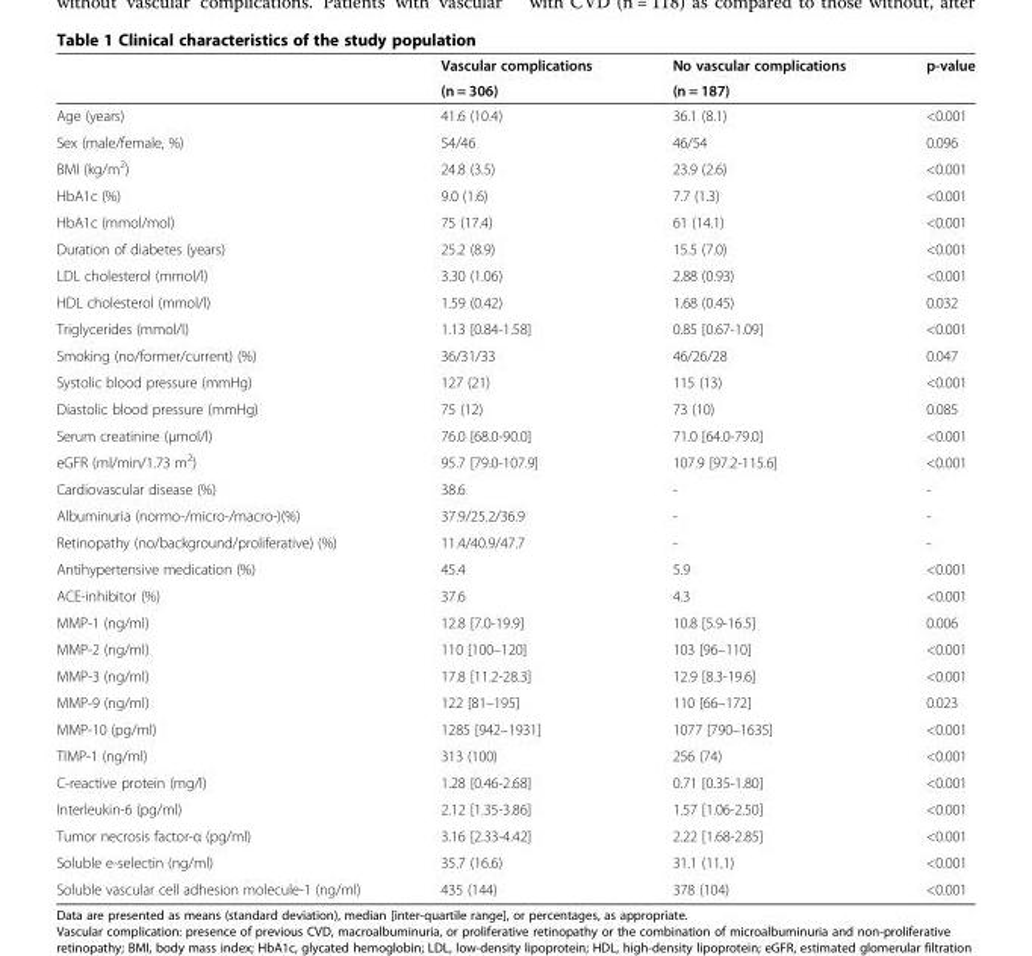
<table><thead><tr><td rowspan="2"></td><td rowspan="2">Vascular complications (n = 306)</td><td rowspan="2">No vascular complications (n = 187)</td><td rowspan="2">p-value</td></tr><tr></tr></thead><tbody><tr><td>Age (years)</td><td>41.6 (10.4)</td><td>36.1 (8.1)</td><td>&lt;0.001</td></tr><tr><td>Sex (male/female, %)</td><td>54/46</td><td>46/54</td><td>0.096</td></tr><tr><td>BMI (kg/m<sup>2</sup>)</td><td>24.8 (3.5)</td><td>23.9 (2.6)</td><td>&lt;0.001</td></tr><tr><td>HbA1c (%)</td><td>9.0 (1.6)</td><td>7.7 (1.3)</td><td>&lt;0.001</td></tr><tr><td>HbA1c (mmol/mol)</td><td>75 (17.4)</td><td>61 (14.1)</td><td>&lt;0.001</td></tr><tr><td>Duration of diabetes (years)</td><td>25.2 (8.9)</td><td>15.5 (7.0)</td><td>&lt;0.001</td></tr><tr><td>LDL cholesterol (mmol/l)</td><td>3.30 (1.06)</td><td>2.88 (0.93)</td><td>&lt;0.001</td></tr><tr><td>HDL cholesterol (mmol/l)</td><td>1.59 (0.42)</td><td>1.68 (0.45)</td><td>0.032</td></tr><tr><td>Triglycerides (mmol/l)</td><td>1.13 [0.84-1.58]</td><td>0.85 [0.67-1.09]</td><td>&lt;0.001</td></tr><tr><td>Smoking (no/former/current) (%)</td><td>36/31/33</td><td>46/26/28</td><td>0.047</td></tr><tr><td>Systolic blood pressure (mmHg)</td><td>127 (21)</td><td>115 (13)</td><td>&lt;0.001</td></tr><tr><td>Diastolic blood pressure (mmHg)</td><td>75 (12)</td><td>73 (10)</td><td>0.085</td></tr><tr><td>Serum creatinine (μmol/l)</td><td>76.0 [68.0-90.0]</td><td>71.0 [64.0-79.0]</td><td>&lt;0.001</td></tr><tr><td>eGFR (ml/min/1.73 m<sup>2</sup>)</td><td>95.7 [79.0-107.9]</td><td>107.9 [97.2-115.6]</td><td>&lt;0.001</td></tr><tr><td>Cardiovascular disease (%)</td><td>38.6</td><td>-</td><td>-</td></tr><tr><td>Albuminuria (normo-/micro-/macro-)(%)</td><td>37.9/25.2/36.9</td><td>-</td><td>-</td></tr><tr><td>Retinopathy (no/background/proliferative) (%)</td><td>11.4/40.9/47.7</td><td>-</td><td>-</td></tr><tr><td>Antihypertensive medication (%)</td><td>45.4</td><td>5.9</td><td>&lt;0.001</td></tr><tr><td>ACE-inhibitor (%)</td><td>37.6</td><td>4.3</td><td>&lt;0.001</td></tr><tr><td>MMP-1 (ng/ml)</td><td>12.8 [7.0-19.9]</td><td>10.8 [5.9-16.5]</td><td>0.006</td></tr><tr><td>MMP-2 (ng/ml)</td><td>110 [100–120]</td><td>103 [96–110]</td><td>&lt;0.001</td></tr><tr><td>MMP-3 (ng/ml)</td><td>17.8 [11.2-28.3]</td><td>12.9 [8.3-19.6]</td><td>&lt;0.001</td></tr><tr><td>MMP-9 (ng/ml)</td><td>122 [81–195]</td><td>110 [66–172]</td><td>0.023</td></tr><tr><td>MMP-10 (pg/ml)</td><td>1285 [942–1931]</td><td>1077 [790–1635]</td><td>&lt;0.001</td></tr><tr><td>TIMP-1 (ng/ml)</td><td>313 (100)</td><td>256 (74)</td><td>&lt;0.001</td></tr><tr><td>C-reactive protein (mg/l)</td><td>1.28 [0.46-2.68]</td><td>0.71 [0.35-1.80]</td><td>&lt;0.001</td></tr><tr><td>Interleukin-6 (pg/ml)</td><td>2.12 [1.35-3.86]</td><td>1.57 [1.06-2.50]</td><td>&lt;0.001</td></tr><tr><td>Tumor necrosis factor-α (pg/ml)</td><td>3.16 [2.33-4.42]</td><td>2.22 [1.68-2.85]</td><td>&lt;0.001</td></tr><tr><td>Soluble e-selectin (ng/ml)</td><td>35.7 (16.6)</td><td>31.1 (11.1)</td><td>&lt;0.001</td></tr><tr><td>Soluble vascular cell adhesion molecule-1 (ng/ml)</td><td>435 (144)</td><td>378 (104)</td><td>&lt;0.001</td></tr></tbody></table>